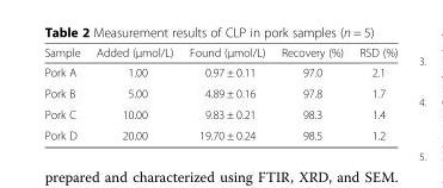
<table><thead><tr><td>Sample</td><td>Added (μmol/L)</td><td>Found (μmol/L)</td><td>Recovery (%)</td><td>RSD (%)</td></tr></thead><tbody><tr><td>Pork A</td><td>1.00</td><td>0.97 ± 0.11</td><td>97.0</td><td>2.1</td></tr><tr><td>Pork B</td><td>5.00</td><td>4.89 ± 0.16</td><td>97.8</td><td>1.7</td></tr><tr><td>Pork C</td><td>10.00</td><td>9.83 ± 0.21</td><td>98.3</td><td>1.4</td></tr><tr><td>Pork D</td><td>20.00</td><td>19.70 ± 0.24</td><td>98.5</td><td>1.2</td></tr></tbody></table>